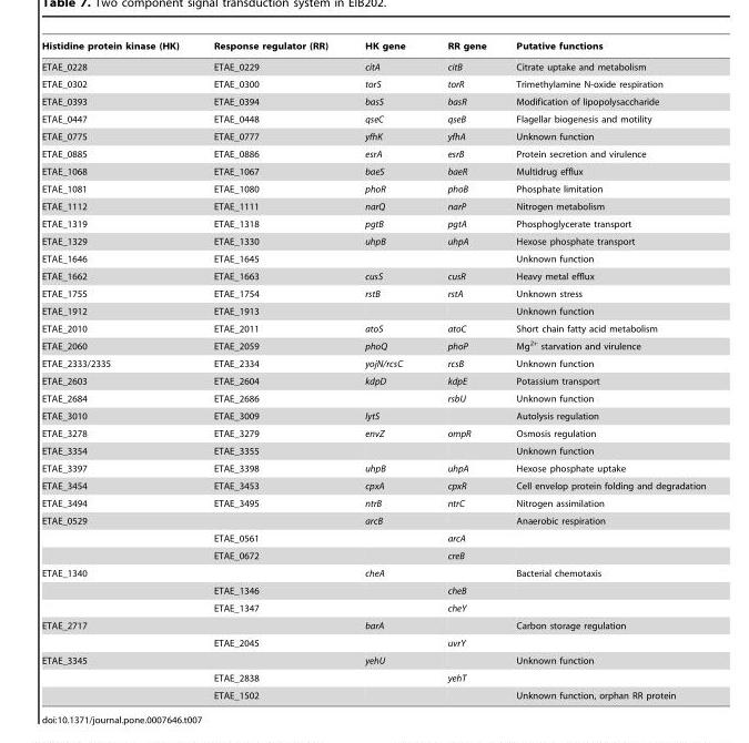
<table><thead><tr><td>Histidine protein kinase (HK)</td><td>Response regulator (RR)</td><td>HK gene</td><td>RR gene</td><td>Putative functions</td></tr></thead><tbody><tr><td>ETAE_0228</td><td>ETAE_0229</td><td>citA</td><td>citB</td><td>Citrate uptake and metabolism</td></tr><tr><td>ETAE_0302</td><td>ETAE_0300</td><td>torS</td><td>torR</td><td>Trimethylamine N-oxide respiration</td></tr><tr><td>ETAE_0393</td><td>ETAE_0394</td><td>basS</td><td>basR</td><td>Modification of lipopolysaccharide</td></tr><tr><td>ETAE_0447</td><td>ETAE_0448</td><td>qseC</td><td>qseB</td><td>Flagellar biogenesis and motility</td></tr><tr><td>ETAE_0775</td><td>ETAE_0777</td><td>yfhK</td><td>yfhA</td><td>Unknown function</td></tr><tr><td>ETAE_0885</td><td>ETAE_0886</td><td>esrA</td><td>esrB</td><td>Protein secretion and virulence</td></tr><tr><td>ETAE_1068</td><td>ETAE_1067</td><td>baeS</td><td>baeR</td><td>Multidrug efflux</td></tr><tr><td>ETAE_1081</td><td>ETAE_1080</td><td>phoR</td><td>phoB</td><td>Phosphate limitation</td></tr><tr><td>ETAE_1112</td><td>ETAE_1111</td><td>narQ</td><td>narP</td><td>Nitrogen metabolism</td></tr><tr><td>ETAE_1319</td><td>ETAE_1318</td><td>pgtB</td><td>pgtA</td><td>Phosphoglycerate transport</td></tr><tr><td>ETAE_1329</td><td>ETAE_1330</td><td>uhpB</td><td>uhpA</td><td>Hexose phosphate transport</td></tr><tr><td>ETAE_1646</td><td>ETAE_1645</td><td></td><td></td><td>Unknown function</td></tr><tr><td>ETAE_1662</td><td>ETAE_1663</td><td>cusS</td><td>cusR</td><td>Heavy metal efflux</td></tr><tr><td>ETAE_1755</td><td>ETAE_1754</td><td>rstB</td><td>rstA</td><td>Unknown stress</td></tr><tr><td>ETAE_1912</td><td>ETAE_1913</td><td></td><td></td><td>Unknown function</td></tr><tr><td>ETAE_2010</td><td>ETAE_2011</td><td>atoS</td><td>atoC</td><td>Short chain fatty acid metabolism</td></tr><tr><td>ETAE_2060</td><td>ETAE_2059</td><td>phoQ</td><td>phoP</td><td>Mg<sup>2+</sup> starvation and virulence</td></tr><tr><td>ETAE_2333/2335</td><td>ETAE_2334</td><td>yojN/rcsC</td><td>rcsB</td><td>Unknown function</td></tr><tr><td>ETAE_2603</td><td>ETAE_2604</td><td>kdpD</td><td>kdpE</td><td>Potassium transport</td></tr><tr><td>ETAE_2684</td><td>ETAE_2686</td><td></td><td>rsbU</td><td>Unknown function</td></tr><tr><td>ETAE_3010</td><td>ETAE_3009</td><td>lytS</td><td></td><td>Autolysis regulation</td></tr><tr><td>ETAE_3278</td><td>ETAE_3279</td><td>envZ</td><td>ompR</td><td>Osmosis regulation</td></tr><tr><td>ETAE_3354</td><td>ETAE_3355</td><td></td><td></td><td>Unknown function</td></tr><tr><td>ETAE_3397</td><td>ETAE_3398</td><td>uhpB</td><td>uhpA</td><td>Hexose phosphate uptake</td></tr><tr><td>ETAE_3454</td><td>ETAE_3453</td><td>cpxA</td><td>cpxR</td><td>Cell envelop protein folding and degradation</td></tr><tr><td>ETAE_3494</td><td>ETAE_3495</td><td>ntrB</td><td>ntrC</td><td>Nitrogen assimilation</td></tr><tr><td rowspan="3">ETAE_0529</td><td></td><td>arcB</td><td></td><td>Anaerobic respiration</td></tr><tr><td>ETAE_0561</td><td></td><td>arcA</td><td></td></tr><tr><td>ETAE_0672</td><td></td><td>creB</td><td></td></tr><tr><td rowspan="3">ETAE_1340</td><td></td><td>cheA</td><td></td><td>Bacterial chemotaxis</td></tr><tr><td>ETAE_1346</td><td></td><td>cheB</td><td></td></tr><tr><td>ETAE_1347</td><td></td><td>cheY</td><td></td></tr><tr><td rowspan="2">ETAE_2717</td><td></td><td>barA</td><td></td><td>Carbon storage regulation</td></tr><tr><td>ETAE_2045</td><td></td><td>uvrY</td><td></td></tr><tr><td rowspan="3">ETAE_3345</td><td></td><td>yehU</td><td></td><td>Unknown function</td></tr><tr><td>ETAE_2838</td><td></td><td>yehT</td><td></td></tr><tr><td>ETAE_1502</td><td></td><td></td><td>Unknown function, orphan RR protein</td></tr></tbody></table>